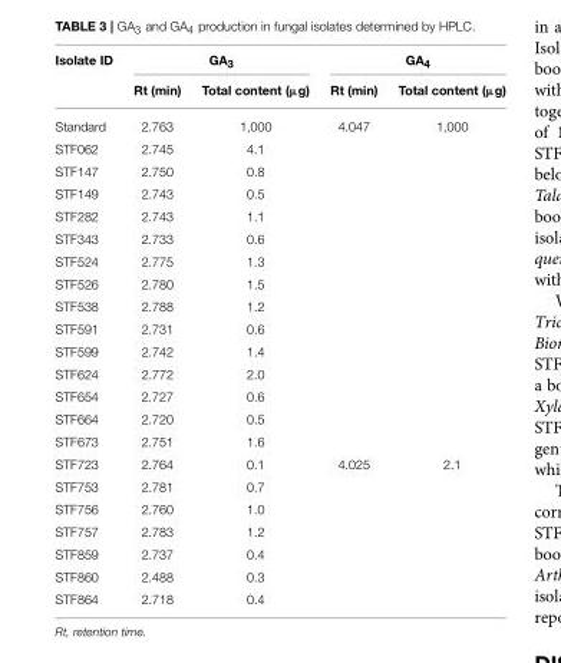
<table><thead><tr><td rowspan="2">Isolate ID</td><td colspan="2">GA<sub>3</sub></td><td colspan="2">GA<sub>4</sub></td></tr><tr><td>Rt (min)</td><td>Total content (µg)</td><td>Rt (min)</td><td>Total content (µg)</td></tr></thead><tbody><tr><td>Standard</td><td>2.763</td><td>1,000</td><td>4.047</td><td>1,000</td></tr><tr><td>STF062</td><td>2.745</td><td>4.1</td><td></td><td></td></tr><tr><td>STF147</td><td>2.750</td><td>0.8</td><td></td><td></td></tr><tr><td>STF149</td><td>2.743</td><td>0.5</td><td></td><td></td></tr><tr><td>STF282</td><td>2.743</td><td>1.1</td><td></td><td></td></tr><tr><td>STF343</td><td>2.733</td><td>0.6</td><td></td><td></td></tr><tr><td>STF524</td><td>2.775</td><td>1.3</td><td></td><td></td></tr><tr><td>STF526</td><td>2.780</td><td>1.5</td><td></td><td></td></tr><tr><td>STF538</td><td>2.788</td><td>1.2</td><td></td><td></td></tr><tr><td>STF591</td><td>2.731</td><td>0.6</td><td></td><td></td></tr><tr><td>STF599</td><td>2.742</td><td>1.4</td><td></td><td></td></tr><tr><td>STF624</td><td>2.772</td><td>2.0</td><td></td><td></td></tr><tr><td>STF654</td><td>2.727</td><td>0.6</td><td></td><td></td></tr><tr><td>STF664</td><td>2.720</td><td>0.5</td><td></td><td></td></tr><tr><td>STF673</td><td>2.751</td><td>1.6</td><td></td><td></td></tr><tr><td>STF723</td><td>2.764</td><td>0.1</td><td>4.025</td><td>2.1</td></tr><tr><td>STF753</td><td>2.781</td><td>0.7</td><td></td><td></td></tr><tr><td>STF756</td><td>2.760</td><td>1.0</td><td></td><td></td></tr><tr><td>STF757</td><td>2.783</td><td>1.2</td><td></td><td></td></tr><tr><td>STF859</td><td>2.737</td><td>0.4</td><td></td><td></td></tr><tr><td>STF860</td><td>2.488</td><td>0.3</td><td></td><td></td></tr><tr><td>STF864</td><td>2.718</td><td>0.4</td><td></td><td></td></tr></tbody></table>